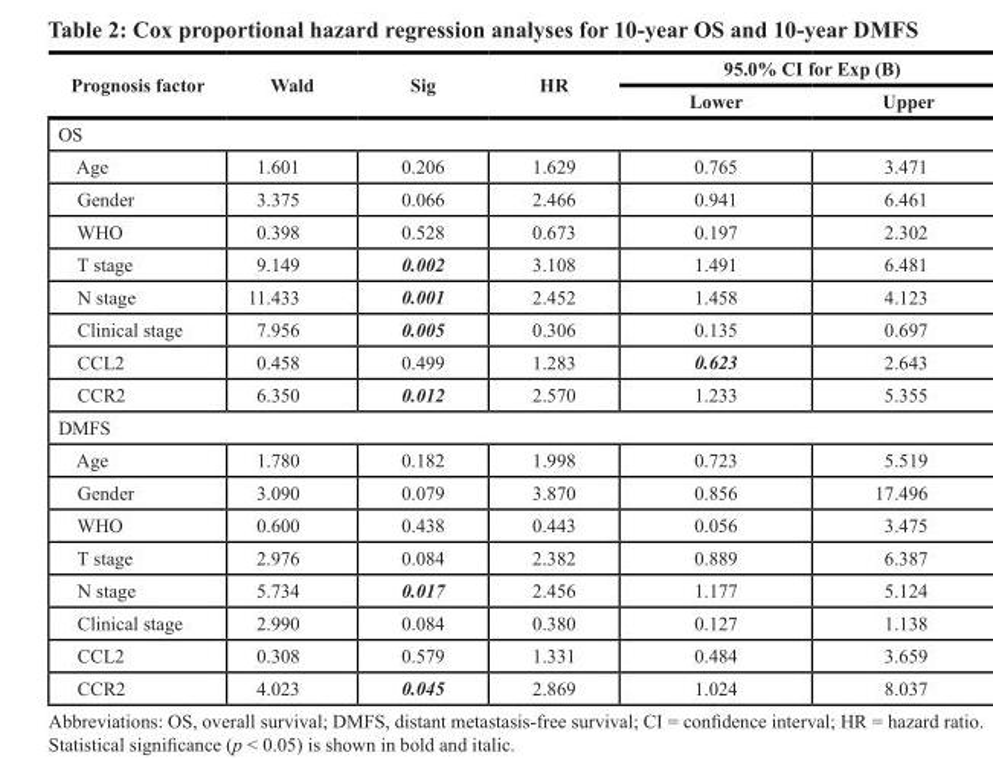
<table><thead><tr><td rowspan="2">Prognosis factor</td><td rowspan="2">Wald</td><td rowspan="2">Sig</td><td rowspan="2">HR</td><td colspan="2">95.0% CI for Exp (B)</td></tr><tr><td>Lower</td><td>Upper</td></tr></thead><tbody><tr><td colspan="6">OS</td></tr><tr><td>Age</td><td>1.601</td><td>0.206</td><td>1.629</td><td>0.765</td><td>3.471</td></tr><tr><td>Gender</td><td>3.375</td><td>0.066</td><td>2.466</td><td>0.941</td><td>6.461</td></tr><tr><td>WHO</td><td>0.398</td><td>0.528</td><td>0.673</td><td>0.197</td><td>2.302</td></tr><tr><td>T stage</td><td>9.149</td><td>0.002</td><td>3.108</td><td>1.491</td><td>6.481</td></tr><tr><td>N stage</td><td>11.433</td><td>0.001</td><td>2.452</td><td>1.458</td><td>4.123</td></tr><tr><td>Clinical stage</td><td>7.956</td><td>0.005</td><td>0.306</td><td>0.135</td><td>0.697</td></tr><tr><td>CCL2</td><td>0.458</td><td>0.499</td><td>1.283</td><td>0.623</td><td>2.643</td></tr><tr><td>CCR2</td><td>6.350</td><td>0.012</td><td>2.570</td><td>1.233</td><td>5.355</td></tr><tr><td colspan="6">DMFS</td></tr><tr><td>Age</td><td>1.780</td><td>0.182</td><td>1.998</td><td>0.723</td><td>5.519</td></tr><tr><td>Gender</td><td>3.090</td><td>0.079</td><td>3.870</td><td>0.856</td><td>17.496</td></tr><tr><td>WHO</td><td>0.600</td><td>0.438</td><td>0.443</td><td>0.056</td><td>3.475</td></tr><tr><td>T stage</td><td>2.976</td><td>0.084</td><td>2.382</td><td>0.889</td><td>6.387</td></tr><tr><td>N stage</td><td>5.734</td><td>0.017</td><td>2.456</td><td>1.177</td><td>5.124</td></tr><tr><td>Clinical stage</td><td>2.990</td><td>0.084</td><td>0.380</td><td>0.127</td><td>1.138</td></tr><tr><td>CCL2</td><td>0.308</td><td>0.579</td><td>1.331</td><td>0.484</td><td>3.659</td></tr><tr><td>CCR2</td><td>4.023</td><td>0.045</td><td>2.869</td><td>1.024</td><td>8.037</td></tr></tbody></table>